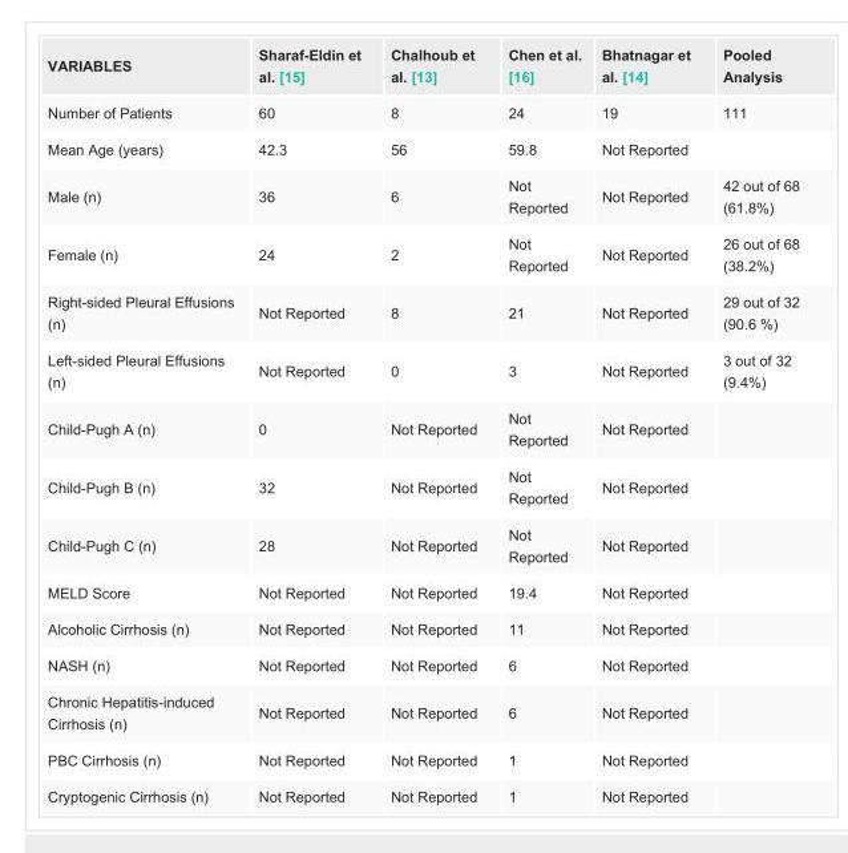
<table><tbody><tr><td>VARIABLES</td><td>Sharaf-Eldin et al. [15]</td><td>Chalhoub et al. [13]</td><td>Chen et al. [16]</td><td>Bhatnagar et al. [14]</td><td>Pooled Analysis</td></tr><tr><td>Number of Patients</td><td>60</td><td>8</td><td>24</td><td>19</td><td>111</td></tr><tr><td>Mean Age (years)</td><td>42.3</td><td>56</td><td>59.8</td><td>Not Reported</td><td></td></tr><tr><td>Male (n)</td><td>36</td><td>6</td><td>Not Reported</td><td>Not Reported</td><td>42 out of 68 (61.8%)</td></tr><tr><td>Female (n)</td><td>24</td><td>2</td><td>Not Reported</td><td>Not Reported</td><td>26 out of 68 (38.2%)</td></tr><tr><td>Right-sided Pleural Effusions (n)</td><td>Not Reported</td><td>8</td><td>21</td><td>Not Reported</td><td>29 out of 32 (90.6 %)</td></tr><tr><td>Left-sided Pleural Effusions (n)</td><td>Not Reported</td><td>0</td><td>3</td><td>Not Reported</td><td>3 out of 32 (9.4%)</td></tr><tr><td>Child-Pugh A (n)</td><td>0</td><td>Not Reported</td><td>Not Reported</td><td>Not Reported</td><td></td></tr><tr><td>Child-Pugh B (n)</td><td>32</td><td>Not Reported</td><td>Not Reported</td><td>Not Reported</td><td></td></tr><tr><td>Child-Pugh C (n)</td><td>28</td><td>Not Reported</td><td>Not Reported</td><td>Not Reported</td><td></td></tr><tr><td>MELD Score</td><td>Not Reported</td><td>Not Reported</td><td>19.4</td><td>Not Reported</td><td></td></tr><tr><td>Alcoholic Cirrhosis (n)</td><td>Not Reported</td><td>Not Reported</td><td>11</td><td>Not Reported</td><td></td></tr><tr><td>NASH (n)</td><td>Not Reported</td><td>Not Reported</td><td>6</td><td>Not Reported</td><td></td></tr><tr><td>Chronic Hepatitis-induced Cirrhosis (n)</td><td>Not Reported</td><td>Not Reported</td><td>6</td><td>Not Reported</td><td></td></tr><tr><td>PBC Cirrhosis (n)</td><td>Not Reported</td><td>Not Reported</td><td>1</td><td>Not Reported</td><td></td></tr><tr><td>Cryptogenic Cirrhosis (n)</td><td>Not Reported</td><td>Not Reported</td><td>1</td><td>Not Reported</td><td></td></tr></tbody></table>